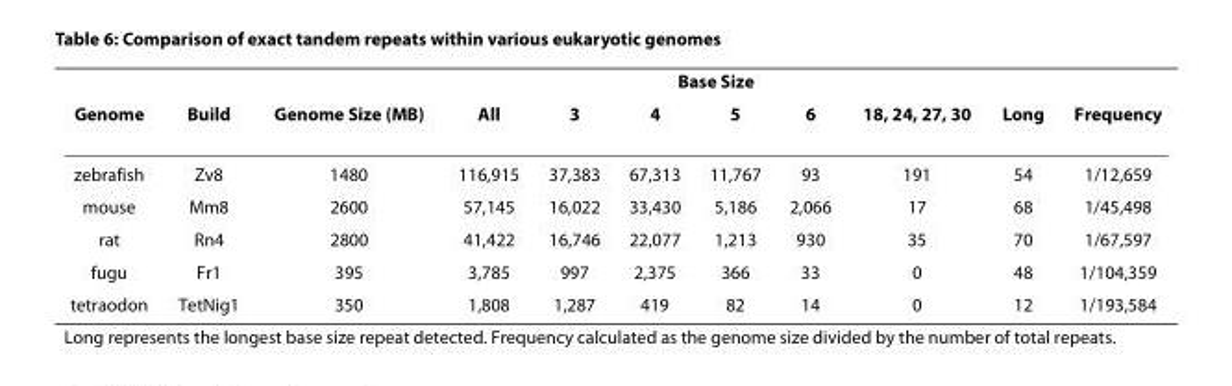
<table><thead><tr><td rowspan="2">Genome</td><td rowspan="2">Build</td><td rowspan="2">Genome Size (MB)</td><td colspan="6">Base Size</td><td rowspan="2">Long</td><td rowspan="2">Frequency</td></tr><tr><td>All</td><td>3</td><td>4</td><td>5</td><td>6</td><td>18, 24, 27, 30</td></tr></thead><tbody><tr><td>zebrafish</td><td>Zv8</td><td>1480</td><td>116,915</td><td>37,383</td><td>67,313</td><td>11,767</td><td>93</td><td>191</td><td>54</td><td>1/12,659</td></tr><tr><td>mouse</td><td>Mm8</td><td>2600</td><td>57,145</td><td>16,022</td><td>33,430</td><td>5,186</td><td>2,066</td><td>17</td><td>68</td><td>1/45,498</td></tr><tr><td>rat</td><td>Rn4</td><td>2800</td><td>41,422</td><td>16,746</td><td>22,077</td><td>1,213</td><td>930</td><td>35</td><td>70</td><td>1/67,597</td></tr><tr><td>fugu</td><td>Fr1</td><td>395</td><td>3,785</td><td>997</td><td>2,375</td><td>366</td><td>33</td><td>0</td><td>48</td><td>1/104,359</td></tr><tr><td>tetraodon</td><td>TetNig1</td><td>350</td><td>1,808</td><td>1,287</td><td>419</td><td>82</td><td>14</td><td>0</td><td>12</td><td>1/193,584</td></tr></tbody></table>